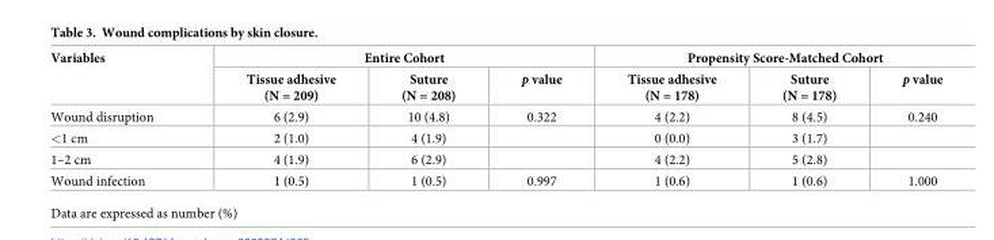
<table><thead><tr><td rowspan="2">Variables</td><td colspan="3">Entire Cohort</td><td colspan="3">Propensity Score-Matched Cohort</td></tr><tr><td>Tissue adhesive (N = 209)</td><td>Suture (N = 208)</td><td>p value</td><td>Tissue adhesive (N = 178)</td><td>Suture (N = 178)</td><td>p value</td></tr></thead><tbody><tr><td>Wound disruption</td><td>6 (2.9)</td><td>10 (4.8)</td><td>0.322</td><td>4 (2.2)</td><td>8 (4.5)</td><td>0.240</td></tr><tr><td>&lt;1 cm</td><td>2 (1.0)</td><td>4 (1.9)</td><td></td><td>0 (0.0)</td><td>3 (1.7)</td><td></td></tr><tr><td>1–2 cm</td><td>4 (1.9)</td><td>6 (2.9)</td><td></td><td>4 (2.2)</td><td>5 (2.8)</td><td></td></tr><tr><td>Wound infection</td><td>1 (0.5)</td><td>1 (0.5)</td><td>0.997</td><td>1 (0.6)</td><td>1 (0.6)</td><td>1.000</td></tr></tbody></table>